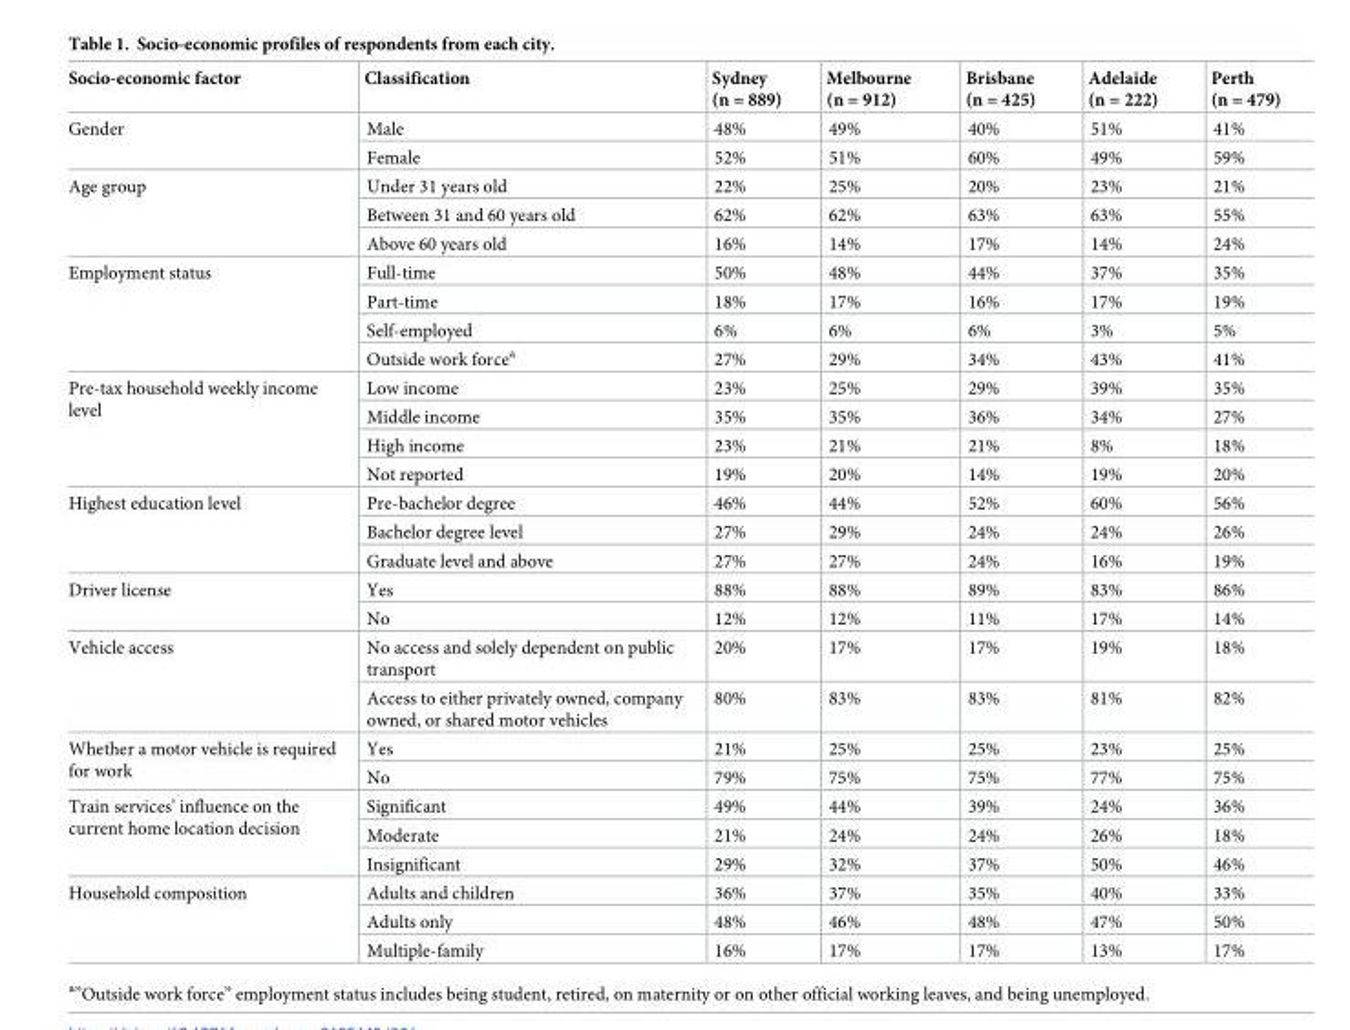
<table><thead><tr><td>Socio-economic factor</td><td>Classification</td><td>Sydney (n = 889)</td><td>Melbourne (n = 912)</td><td>Brisbane (n = 425)</td><td>Adelaide (n = 222)</td><td>Perth (n = 479)</td></tr></thead><tbody><tr><td rowspan="2">Gender</td><td>Male</td><td>48%</td><td>49%</td><td>40%</td><td>51%</td><td>41%</td></tr><tr><td>Female</td><td>52%</td><td>51%</td><td>60%</td><td>49%</td><td>59%</td></tr><tr><td rowspan="3">Age group</td><td>Under 31 years old</td><td>22%</td><td>25%</td><td>20%</td><td>23%</td><td>21%</td></tr><tr><td>Between 31 and 60 years old</td><td>62%</td><td>62%</td><td>63%</td><td>63%</td><td>55%</td></tr><tr><td>Above 60 years old</td><td>16%</td><td>14%</td><td>17%</td><td>14%</td><td>24%</td></tr><tr><td rowspan="4">Employment status</td><td>Full-time</td><td>50%</td><td>48%</td><td>44%</td><td>37%</td><td>35%</td></tr><tr><td>Part-time</td><td>18%</td><td>17%</td><td>16%</td><td>17%</td><td>19%</td></tr><tr><td>Self-employed</td><td>6%</td><td>6%</td><td>6%</td><td>3%</td><td>5%</td></tr><tr><td>Outside work force<sup>a</sup></td><td>27%</td><td>29%</td><td>34%</td><td>43%</td><td>41%</td></tr><tr><td rowspan="4">Pre-tax household weekly income level</td><td>Low income</td><td>23%</td><td>25%</td><td>29%</td><td>39%</td><td>35%</td></tr><tr><td>Middle income</td><td>35%</td><td>35%</td><td>36%</td><td>34%</td><td>27%</td></tr><tr><td>High income</td><td>23%</td><td>21%</td><td>21%</td><td>8%</td><td>18%</td></tr><tr><td>Not reported</td><td>19%</td><td>20%</td><td>14%</td><td>19%</td><td>20%</td></tr><tr><td rowspan="3">Highest education level</td><td>Pre-bachelor degree</td><td>46%</td><td>44%</td><td>52%</td><td>60%</td><td>56%</td></tr><tr><td>Bachelor degree level</td><td>27%</td><td>29%</td><td>24%</td><td>24%</td><td>26%</td></tr><tr><td>Graduate level and above</td><td>27%</td><td>27%</td><td>24%</td><td>16%</td><td>19%</td></tr><tr><td rowspan="2">Driver license</td><td>Yes</td><td>88%</td><td>88%</td><td>89%</td><td>83%</td><td>86%</td></tr><tr><td>No</td><td>12%</td><td>12%</td><td>11%</td><td>17%</td><td>14%</td></tr><tr><td rowspan="2">Vehicle access</td><td>No access and solely dependent on public transport</td><td>20%</td><td>17%</td><td>17%</td><td>19%</td><td>18%</td></tr><tr><td>Access to either privately owned, company owned, or shared motor vehicles</td><td>80%</td><td>83%</td><td>83%</td><td>81%</td><td>82%</td></tr><tr><td rowspan="2">Whether a motor vehicle is required for work</td><td>Yes</td><td>21%</td><td>25%</td><td>25%</td><td>23%</td><td>25%</td></tr><tr><td>No</td><td>79%</td><td>75%</td><td>75%</td><td>77%</td><td>75%</td></tr><tr><td rowspan="3">Train services’ influence on the current home location decision</td><td>Significant</td><td>49%</td><td>44%</td><td>39%</td><td>24%</td><td>36%</td></tr><tr><td>Moderate</td><td>21%</td><td>24%</td><td>24%</td><td>26%</td><td>18%</td></tr><tr><td>Insignificant</td><td>29%</td><td>32%</td><td>37%</td><td>50%</td><td>46%</td></tr><tr><td rowspan="3">Household composition</td><td>Adults and children</td><td>36%</td><td>37%</td><td>35%</td><td>40%</td><td>33%</td></tr><tr><td>Adults only</td><td>48%</td><td>46%</td><td>48%</td><td>47%</td><td>50%</td></tr><tr><td>Multiple-family</td><td>16%</td><td>17%</td><td>17%</td><td>13%</td><td>17%</td></tr></tbody></table>